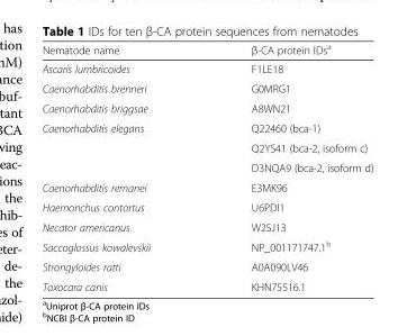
<table><thead><tr><td>Nematode name</td><td>β-CA protein IDs<sup>a</sup></td></tr></thead><tbody><tr><td>Ascaris lumbricoides</td><td>F1LE18</td></tr><tr><td>Caenorhabditis brenneri</td><td>G0MRG1</td></tr><tr><td>Caenorhabditis briggsae</td><td>A8WN21</td></tr><tr><td rowspan="3">Caenorhabditis elegans</td><td>Q22460 (bca-1)</td></tr><tr><td>Q2YS41 (bca-2, isoform c)</td></tr><tr><td>D3NQA9 (bca-2, isoform d)</td></tr><tr><td>Caenorhabditis remanei</td><td>E3MK96</td></tr><tr><td>Haemonchus contortus</td><td>U6PDI1</td></tr><tr><td>Necator americanus</td><td>W2SJ13</td></tr><tr><td>Saccoglossus kowalevskii</td><td>NP_001171747.1<sup>b</sup></td></tr><tr><td>Strongyloides ratti</td><td>A0A090LV46</td></tr><tr><td>Toxocara canis</td><td>KHN75516.1</td></tr></tbody></table>